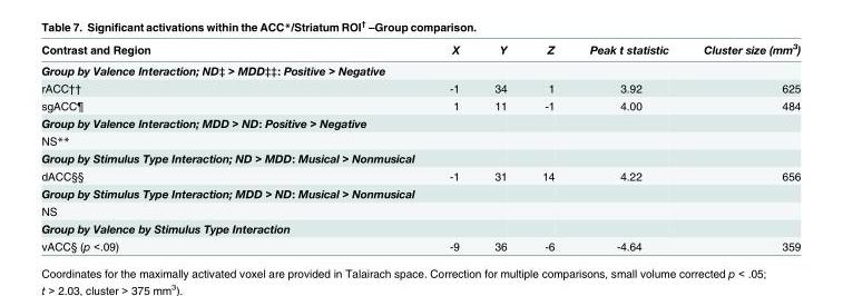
<table><thead><tr><td>Contrast and Region</td><td>X</td><td>Y</td><td>Z</td><td>Peak t statistic</td><td>Cluster size (mm<sup>3</sup>)</td></tr></thead><tbody><tr><td colspan="6">Group by Valence Interaction; ND‡ &gt; MDD‡‡: Positive &gt; Negative</td></tr><tr><td>rACC††</td><td>-1</td><td>34</td><td>1</td><td>3.92</td><td>625</td></tr><tr><td>sgACC¶</td><td>1</td><td>11</td><td>-1</td><td>4.00</td><td>484</td></tr><tr><td colspan="6">Group by Valence Interaction; MDD &gt; ND: Positive &gt; Negative</td></tr><tr><td colspan="6">NS**</td></tr><tr><td colspan="6">Group by Stimulus Type Interaction; ND &gt; MDD: Musical &gt; Nonmusical</td></tr><tr><td>dACC§§</td><td>-1</td><td>31</td><td>14</td><td>4.22</td><td>656</td></tr><tr><td colspan="6">Group by Stimulus Type Interaction; MDD &gt; ND: Musical &gt; Nonmusical</td></tr><tr><td colspan="6">NS</td></tr><tr><td colspan="6">Group by Valence by Stimulus Type Interaction</td></tr><tr><td>vACC§ (p &lt;.09)</td><td>-9</td><td>36</td><td>-6</td><td>-4.64</td><td>359</td></tr></tbody></table>